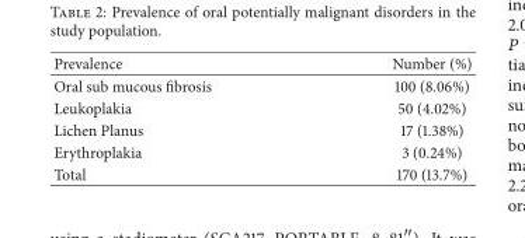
<table><thead><tr><td>Prevalence</td><td>Number (%)</td></tr></thead><tbody><tr><td>Oral sub mucous fibrosis</td><td>100 (8.06%)</td></tr><tr><td>Leukoplakia</td><td>50 (4.02%)</td></tr><tr><td>Lichen Planus</td><td>17 (1.38%)</td></tr><tr><td>Erythroplakia</td><td>3 (0.24%)</td></tr><tr><td>Total</td><td>170 (13.7%)</td></tr></tbody></table>